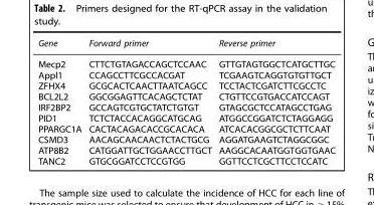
<table><thead><tr><td>Gene</td><td>Forward primer</td><td>Reverse primer</td></tr></thead><tbody><tr><td>Mecp2</td><td>CTTCTGTAGACCAGCTCCAAC</td><td>GTTGTAGTGGCTCATGCTTGC</td></tr><tr><td>Appl1</td><td>CCAGCCTTCGCCACGAT</td><td>TCGAAGTCAGGTGTGTTGCT</td></tr><tr><td>ZFHX4</td><td>GCGCACTCAACTTAATCAGCC</td><td>TCCTACTCGATCTTCGCCTC</td></tr><tr><td>BCL2L2</td><td>GGCGGAGTTCACAGCTCTAT</td><td>CTGTTCCGTGACCATCCAGT</td></tr><tr><td>IRF2BP2</td><td>GCCAGTCGTGCTATCTGTGT</td><td>GTAGCGCTCCATAGCCTGAG</td></tr><tr><td>PID1</td><td>TCTCTACCACAGGCATGCAG</td><td>ATGGCCGGATCTCTAGGAGG</td></tr><tr><td>PPARGC1A</td><td>CACTACAGACACCGCACACA</td><td>ATCACACGGCGCTCTTCAAT</td></tr><tr><td>CSMD3</td><td>AACAGCAACAACTCTACTGCG</td><td>AGGATGAAGTCTAGGCGGC</td></tr><tr><td>ATP8B2</td><td>CATGGATTGCTGGAACCTTGCT</td><td>AAGGCACAATGGTGGTGAAC</td></tr><tr><td>TANC2</td><td>GTGCGGATCCTCCGTGG</td><td>GGTTCCTCGCTTCCTCCATC</td></tr></tbody></table>